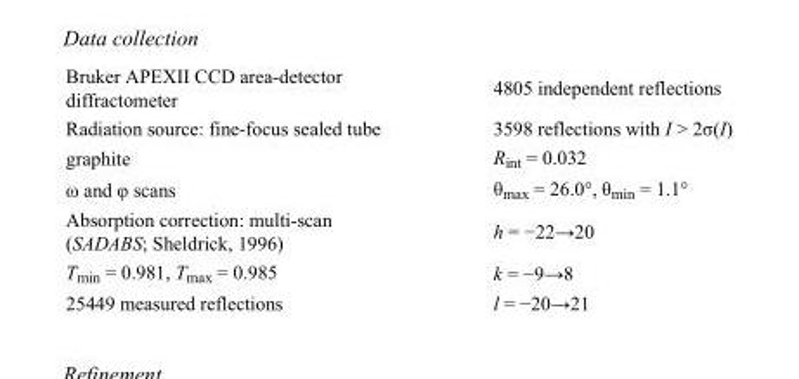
<table><tbody><tr><td>Bruker APEXII CCD area-detector diffractometer</td><td>4805 independent reflections</td></tr><tr><td>Radiation source: fine-focus sealed tube</td><td>3598 reflections with I &gt; 2σ(I)</td></tr><tr><td>graphite</td><td>R<sub>int</sub> = 0.032</td></tr><tr><td>ω and φ scans</td><td>θ<sub>max</sub> = 26.0°, θ<sub>min</sub> = 1.1°</td></tr><tr><td>Absorption correction: multi-scan (SADABS; Sheldrick, 1996)</td><td>h = −22→20</td></tr><tr><td>T<sub>min</sub> = 0.981, T<sub>max</sub> = 0.985</td><td>k = −9→8</td></tr><tr><td>25449 measured reflections</td><td>l = −20→21</td></tr></tbody></table>